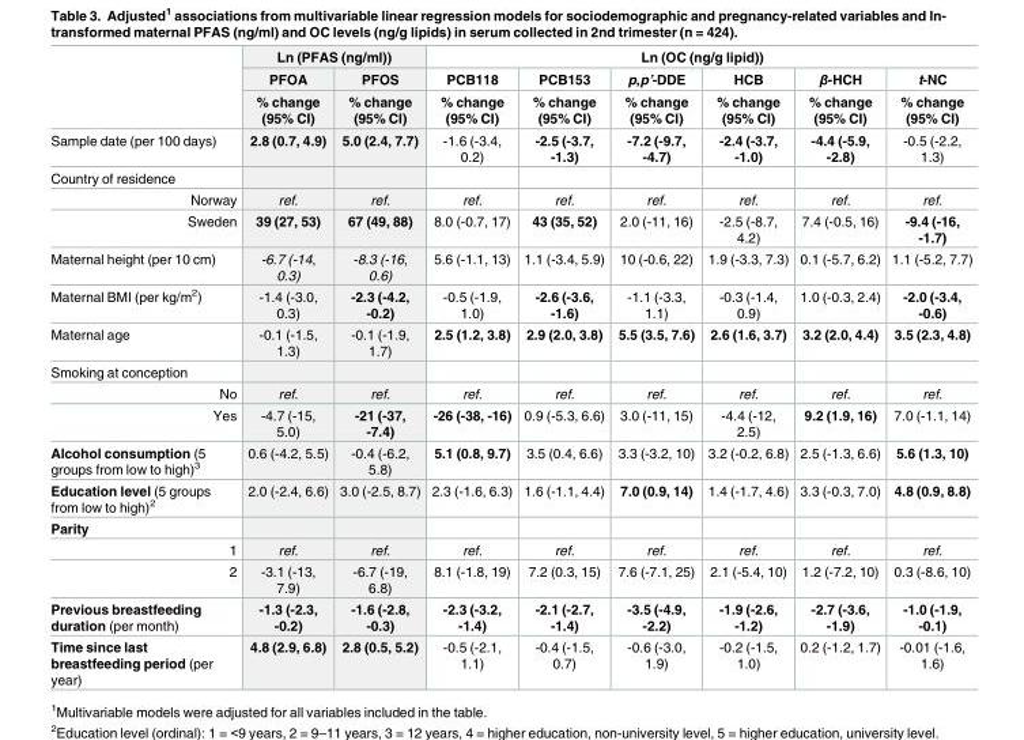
<table><thead><tr><td rowspan="3"></td><td colspan="2">Ln (PFAS (ng/ml))</td><td colspan="6">Ln (OC (ng/g lipid))</td></tr><tr><td rowspan="2">PFOA % change (95% CI)</td><td rowspan="2">PFOS % change (95% CI)</td><td rowspan="2">PCB118 % change (95% CI)</td><td rowspan="2">PCB153 % change (95% CI)</td><td rowspan="2">p,p’-DDE % change (95% CI)</td><td rowspan="2">HCB % change (95% CI)</td><td rowspan="2">β-HCH % change (95% CI)</td><td rowspan="2">t-NC % change (95% CI)</td></tr><tr></tr></thead><tbody><tr><td>Sample date (per 100 days)</td><td>2.8 (0.7, 4.9)</td><td>5.0 (2.4, 7.7)</td><td>-1.6 (-3.4, 0.2)</td><td>-2.5 (-3.7, -1.3)</td><td>-7.2 (-9.7, -4.7)</td><td>-2.4 (-3.7, -1.0)</td><td>-4.4 (-5.9, -2.8)</td><td>-0.5 (-2.2, 1.3)</td></tr><tr><td colspan="9">Country of residence</td></tr><tr><td>Norway</td><td>ref.</td><td>ref.</td><td>ref.</td><td>ref.</td><td>ref.</td><td>ref.</td><td>ref.</td><td>ref.</td></tr><tr><td>Sweden</td><td>39 (27, 53)</td><td>67 (49, 88)</td><td>8.0 (-0.7, 17)</td><td>43 (35, 52)</td><td>2.0 (-11, 16)</td><td>-2.5 (-8.7, 4.2)</td><td>7.4 (-0.5, 16)</td><td>-9.4 (-16, -1.7)</td></tr><tr><td>Maternal height (per 10 cm)</td><td>-6.7 (-14, 0.3)</td><td>-8.3 (-16, 0.6)</td><td>5.6 (-1.1, 13)</td><td>1.1 (-3.4, 5.9)</td><td>10 (-0.6, 22)</td><td>1.9 (-3.3, 7.3)</td><td>0.1 (-5.7, 6.2)</td><td>1.1 (-5.2, 7.7)</td></tr><tr><td>Maternal BMI (per kg/m<sup>2</sup>)</td><td>-1.4 (-3.0, 0.3)</td><td>-2.3 (-4.2, -0.2)</td><td>-0.5 (-1.9, 1.0)</td><td>-2.6 (-3.6, -1.6)</td><td>-1.1 (-3.3, 1.1)</td><td>-0.3 (-1.4, 0.9)</td><td>1.0 (-0.3, 2.4)</td><td>-2.0 (-3.4, -0.6)</td></tr><tr><td>Maternal age</td><td>-0.1 (-1.5, 1.3)</td><td>-0.1 (-1.9, 1.7)</td><td>2.5 (1.2, 3.8)</td><td>2.9 (2.0, 3.8)</td><td>5.5 (3.5, 7.6)</td><td>2.6 (1.6, 3.7)</td><td>3.2 (2.0, 4.4)</td><td>3.5 (2.3, 4.8)</td></tr><tr><td colspan="9">Smoking at conception</td></tr><tr><td>No</td><td>ref.</td><td>ref.</td><td>ref.</td><td>ref.</td><td>ref.</td><td>ref.</td><td>ref.</td><td>ref.</td></tr><tr><td>Yes</td><td>-4.7 (-15, 5.0)</td><td>-21 (-37, -7.4)</td><td>-26 (-38, -16)</td><td>0.9 (-5.3, 6.6)</td><td>3.0 (-11, 15)</td><td>-4.4 (-12, 2.5)</td><td>9.2 (1.9, 16)</td><td>7.0 (-1.1, 14)</td></tr><tr><td>Alcohol consumption (5 groups from low to high)<sup>3</sup></td><td>0.6 (-4.2, 5.5)</td><td>-0.4 (-6.2, 5.8)</td><td>5.1 (0.8, 9.7)</td><td>3.5 (0.4, 6.6)</td><td>3.3 (-3.2, 10)</td><td>3.2 (-0.2, 6.8)</td><td>2.5 (-1.3, 6.6)</td><td>5.6 (1.3, 10)</td></tr><tr><td>Education level (5 groups from low to high)<sup>2</sup></td><td>2.0 (-2.4, 6.6)</td><td>3.0 (-2.5, 8.7)</td><td>2.3 (-1.6, 6.3)</td><td>1.6 (-1.1, 4.4)</td><td>7.0 (0.9, 14)</td><td>1.4 (-1.7, 4.6)</td><td>3.3 (-0.3, 7.0)</td><td>4.8 (0.9, 8.8)</td></tr><tr><td colspan="9">Parity</td></tr><tr><td>1</td><td>ref.</td><td>ref.</td><td>ref.</td><td>ref.</td><td>ref.</td><td>ref.</td><td>ref.</td><td>ref.</td></tr><tr><td>2</td><td>-3.1 (-13, 7.9)</td><td>-6.7 (-19, 6.8)</td><td>8.1 (-1.8, 19)</td><td>7.2 (0.3, 15)</td><td>7.6 (-7.1, 25)</td><td>2.1 (-5.4, 10)</td><td>1.2 (-7.2, 10)</td><td>0.3 (-8.6, 10)</td></tr><tr><td>Previous breastfeeding duration (per month)</td><td>-1.3 (-2.3, -0.2)</td><td>-1.6 (-2.8, -0.3)</td><td>-2.3 (-3.2, -1.4)</td><td>-2.1 (-2.7, -1.4)</td><td>-3.5 (-4.9, -2.2)</td><td>-1.9 (-2.6, -1.2)</td><td>-2.7 (-3.6, -1.9)</td><td>-1.0 (-1.9, -0.1)</td></tr><tr><td>Time since last breastfeeding period (per year)</td><td>4.8 (2.9, 6.8)</td><td>2.8 (0.5, 5.2)</td><td>-0.5 (-2.1, 1.1)</td><td>-0.4 (-1.5, 0.7)</td><td>-0.6 (-3.0, 1.9)</td><td>-0.2 (-1.5, 1.0)</td><td>0.2 (-1.2, 1.7)</td><td>-0.01 (-1.6, 1.6)</td></tr></tbody></table>